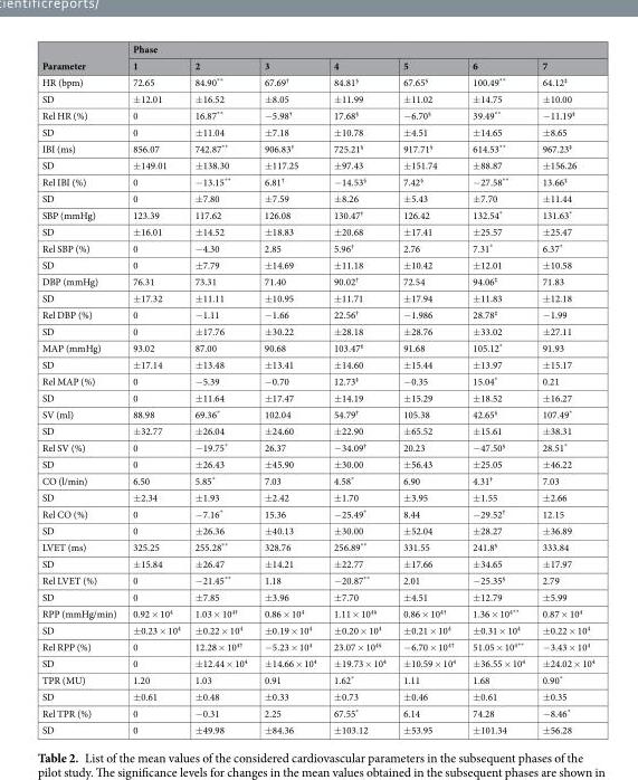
<table><thead><tr><td rowspan="2">Parameter</td><td colspan="7">Phase</td></tr><tr><td>1</td><td>2</td><td>3</td><td>4</td><td>5</td><td>6</td><td>7</td></tr></thead><tbody><tr><td>HR (bpm)</td><td>72.65</td><td>84.90**</td><td>67.69<sup>†</sup></td><td>84.81<sup>§</sup></td><td>67.65<sup>§</sup></td><td>100.49**</td><td>64.12<sup>‡</sup></td></tr><tr><td>SD</td><td>±12.01</td><td>±16.52</td><td>±8.05</td><td>±11.99</td><td>±11.02</td><td>±14.75</td><td>±10.00</td></tr><tr><td>Rel HR (%)</td><td>0</td><td>16.87**</td><td>−5.98<sup>†</sup></td><td>17.68<sup>§</sup></td><td>−6.70<sup>§</sup></td><td>39.49**</td><td>−11.19<sup>‡</sup></td></tr><tr><td>SD</td><td>0</td><td>±11.04</td><td>±7.18</td><td>±10.78</td><td>±4.51</td><td>±14.65</td><td>±8.65</td></tr><tr><td>IBI (ms)</td><td>856.07</td><td>742.87**</td><td>906.83<sup>†</sup></td><td>725.21<sup>§</sup></td><td>917.71<sup>§</sup></td><td>614.53**</td><td>967.23<sup>‡</sup></td></tr><tr><td>SD</td><td>±149.01</td><td>±138.30</td><td>±117.25</td><td>±97.43</td><td>±151.74</td><td>±88.87</td><td>±156.26</td></tr><tr><td>Rel IBI (%)</td><td>0</td><td>−13.15**</td><td>6.81<sup>†</sup></td><td>−14.53<sup>§</sup></td><td>7.42<sup>§</sup></td><td>−27.58**</td><td>13.66<sup>‡</sup></td></tr><tr><td>SD</td><td>0</td><td>±7.80</td><td>±7.59</td><td>±8.26</td><td>±5.43</td><td>±7.70</td><td>±11.44</td></tr><tr><td>SBP (mmHg)</td><td>123.39</td><td>117.62</td><td>126.08</td><td>130.47<sup>†</sup></td><td>126.42</td><td>132.54*</td><td>131.63*</td></tr><tr><td>SD</td><td>±16.01</td><td>±14.52</td><td>±18.83</td><td>±20.68</td><td>±17.41</td><td>±25.57</td><td>±25.47</td></tr><tr><td>Rel SBP (%)</td><td>0</td><td>−4.30</td><td>2.85</td><td>5.96<sup>†</sup></td><td>2.76</td><td>7.31*</td><td>6.37*</td></tr><tr><td>SD</td><td>0</td><td>±7.79</td><td>±14.69</td><td>±11.18</td><td>±10.42</td><td>±12.01</td><td>±10.58</td></tr><tr><td>DBP (mmHg)</td><td>76.31</td><td>73.31</td><td>71.40</td><td>90.02<sup>†</sup></td><td>72.54</td><td>94.06<sup>‡</sup></td><td>71.83</td></tr><tr><td>SD</td><td>±17.32</td><td>±11.11</td><td>±10.95</td><td>±11.71</td><td>±17.94</td><td>±11.83</td><td>±12.18</td></tr><tr><td>Rel DBP (%)</td><td>0</td><td>−1.11</td><td>−1.66</td><td>22.56<sup>†</sup></td><td>−1.986</td><td>28.78<sup>‡</sup></td><td>−1.99</td></tr><tr><td>SD</td><td>0</td><td>±17.76</td><td>±30.22</td><td>±28.18</td><td>±28.76</td><td>±33.02</td><td>±27.11</td></tr><tr><td>MAP (mmHg)</td><td>93.02</td><td>87.00</td><td>90.68</td><td>103.47<sup>‡</sup></td><td>91.68</td><td>105.12*</td><td>91.93</td></tr><tr><td>SD</td><td>±17.14</td><td>±13.48</td><td>±13.41</td><td>±14.60</td><td>±15.44</td><td>±13.97</td><td>±15.17</td></tr><tr><td>Rel MAP (%)</td><td>0</td><td>−5.39</td><td>−0.70</td><td>12.73<sup>‡</sup></td><td>−0.35</td><td>15.04*</td><td>0.21</td></tr><tr><td>SD</td><td>0</td><td>±11.64</td><td>±17.47</td><td>±14.19</td><td>±15.29</td><td>±18.52</td><td>±16.27</td></tr><tr><td>SV (ml)</td><td>88.98</td><td>69.36*</td><td>102.04</td><td>54.79<sup>†</sup></td><td>105.38</td><td>42.65<sup>§</sup></td><td>107.49*</td></tr><tr><td>SD</td><td>±32.77</td><td>±26.04</td><td>±24.60</td><td>±22.90</td><td>±65.52</td><td>±15.61</td><td>±38.31</td></tr><tr><td>Rel SV (%)</td><td>0</td><td>−19.75*</td><td>26.37</td><td>−34.09<sup>†</sup></td><td>20.23</td><td>−47.50<sup>§</sup></td><td>28.51*</td></tr><tr><td>SD</td><td>0</td><td>±26.43</td><td>±45.90</td><td>±30.00</td><td>±56.43</td><td>±25.05</td><td>±46.22</td></tr><tr><td>CO (l/min)</td><td>6.50</td><td>5.85*</td><td>7.03</td><td>4.58*</td><td>6.90</td><td>4.31<sup>†</sup></td><td>7.03</td></tr><tr><td>SD</td><td>±2.34</td><td>±1.93</td><td>±2.42</td><td>±1.70</td><td>±3.95</td><td>±1.55</td><td>±2.66</td></tr><tr><td>Rel CO (%)</td><td>0</td><td>−7.16*</td><td>15.36</td><td>−25.49*</td><td>8.44</td><td>−29.52<sup>†</sup></td><td>12.15</td></tr><tr><td>SD</td><td>0</td><td>±26.36</td><td>±40.13</td><td>±30.00</td><td>±52.04</td><td>±28.27</td><td>±36.89</td></tr><tr><td>LVET (ms)</td><td>325.25</td><td>255.28**</td><td>328.76</td><td>256.89**</td><td>331.55</td><td>241.8<sup>§</sup></td><td>333.84</td></tr><tr><td>SD</td><td>±15.84</td><td>±26.47</td><td>±14.21</td><td>±22.77</td><td>±17.66</td><td>±34.65</td><td>±17.97</td></tr><tr><td>Rel LVET (%)</td><td>0</td><td>−21.45**</td><td>1.18</td><td>−20.87**</td><td>2.01</td><td>−25.35<sup>§</sup></td><td>2.79</td></tr><tr><td>SD</td><td>0</td><td>±7.85</td><td>±3.96</td><td>±7.70</td><td>±4.51</td><td>±12.79</td><td>±5.99</td></tr><tr><td>RPP (mmHg/min)</td><td>0.92 × 10<sup>4</sup></td><td>1.03 × 10<sup>4†</sup></td><td>0.86 × 10<sup>4</sup></td><td>1.11 × 10<sup>4§</sup></td><td>0.86 × 10<sup>4†</sup></td><td>1.36 × 10<sup>4**</sup></td><td>0.87 × 10<sup>4</sup></td></tr><tr><td>SD</td><td>±0.23 × 10<sup>4</sup></td><td>±0.22 × 10<sup>4</sup></td><td>±0.19 × 10<sup>4</sup></td><td>±0.20 × 10<sup>4</sup></td><td>±0.21 × 10<sup>4</sup></td><td>±0.31 × 10<sup>4</sup></td><td>±0.22 × 10<sup>4</sup></td></tr><tr><td>Rel RPP (%)</td><td>0</td><td>12.28 × 10<sup>4†</sup></td><td>−5.23 × 10<sup>4</sup></td><td>23.07 × 10<sup>4§</sup></td><td>−6.70 × 10<sup>4†</sup></td><td>51.05 × 10<sup>4**</sup></td><td>−3.43 × 10<sup>4</sup></td></tr><tr><td>SD</td><td>0</td><td>±12.44 × 10<sup>4</sup></td><td>±14.66 × 10<sup>4</sup></td><td>±19.73 × 10<sup>4</sup></td><td>±10.59 × 10<sup>4</sup></td><td>±36.55 × 10<sup>4</sup></td><td>±24.02 × 10<sup>4</sup></td></tr><tr><td>TPR (MU)</td><td>1.20</td><td>1.03</td><td>0.91</td><td>1.62*</td><td>1.11</td><td>1.68</td><td>0.90*</td></tr><tr><td>SD</td><td>±0.61</td><td>±0.48</td><td>±0.33</td><td>±0.73</td><td>±0.46</td><td>±0.61</td><td>±0.35</td></tr><tr><td>Rel TPR (%)</td><td>0</td><td>−0.31</td><td>2.25</td><td>67.55*</td><td>6.14</td><td>74.28</td><td>−8.46*</td></tr><tr><td>SD</td><td>0</td><td>±49.98</td><td>±84.36</td><td>±103.12</td><td>±53.95</td><td>±101.34</td><td>±56.28</td></tr></tbody></table>